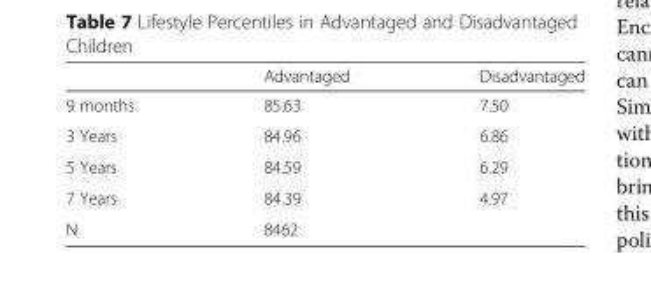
<table><thead><tr><td></td><td>Advantaged</td><td>Disadvantaged</td></tr></thead><tbody><tr><td>9 months</td><td>85.63</td><td>7.50</td></tr><tr><td>3 Years</td><td>84.96</td><td>6.86</td></tr><tr><td>5 Years</td><td>84.59</td><td>6.29</td></tr><tr><td>7 Years</td><td>84.39</td><td>4.97</td></tr><tr><td>N</td><td colspan="2">8462</td></tr></tbody></table>